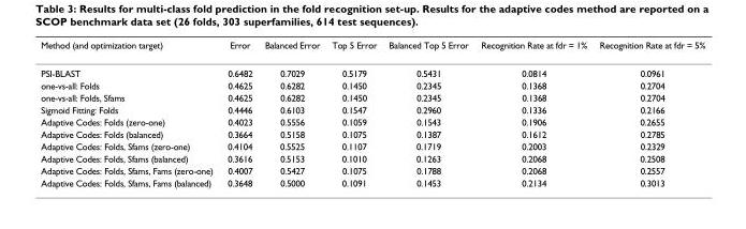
<table><thead><tr><td>Method (and optimization target)</td><td>Error</td><td>Balanced Error</td><td>Top 5 Error</td><td>Balanced Top 5 Error</td><td>Recognition Rate at fdr = 1%</td><td>Recognition Rate at fdr = 5%</td></tr></thead><tbody><tr><td>PSI-BLAST</td><td>0.6482</td><td>0.7029</td><td>0.5179</td><td>0.5431</td><td>0.0814</td><td>0.0961</td></tr><tr><td>one-vs-all: Folds</td><td>0.4625</td><td>0.6282</td><td>0.1450</td><td>0.2345</td><td>0.1368</td><td>0.2704</td></tr><tr><td>one-vs-all: Folds, Sfams</td><td>0.4625</td><td>0.6282</td><td>0.1450</td><td>0.2345</td><td>0.1368</td><td>0.2704</td></tr><tr><td>Sigmoid Fitting: Folds</td><td>0.4446</td><td>0.6103</td><td>0.1547</td><td>0.2960</td><td>0.1336</td><td>0.2166</td></tr><tr><td>Adaptive Codes: Folds (zero-one)</td><td>0.4023</td><td>0.5556</td><td>0.1059</td><td>0.1543</td><td>0.1906</td><td>0.2655</td></tr><tr><td>Adaptive Codes: Folds (balanced)</td><td>0.3664</td><td>0.5158</td><td>0.1075</td><td>0.1387</td><td>0.1612</td><td>0.2785</td></tr><tr><td>Adaptive Codes: Folds, Sfams (zero-one)</td><td>0.4104</td><td>0.5525</td><td>0.1107</td><td>0.1719</td><td>0.2003</td><td>0.2329</td></tr><tr><td>Adaptive Codes: Folds, Sfams (balanced)</td><td>0.3616</td><td>0.5153</td><td>0.1010</td><td>0.1263</td><td>0.2068</td><td>0.2508</td></tr><tr><td>Adaptive Codes: Folds, Sfams, Fams (zero-one)</td><td>0.4007</td><td>0.5427</td><td>0.1075</td><td>0.1788</td><td>0.2068</td><td>0.2557</td></tr><tr><td>Adaptive Codes: Folds, Sfams, Fams (balanced)</td><td>0.3648</td><td>0.5000</td><td>0.1091</td><td>0.1453</td><td>0.2134</td><td>0.3013</td></tr></tbody></table>